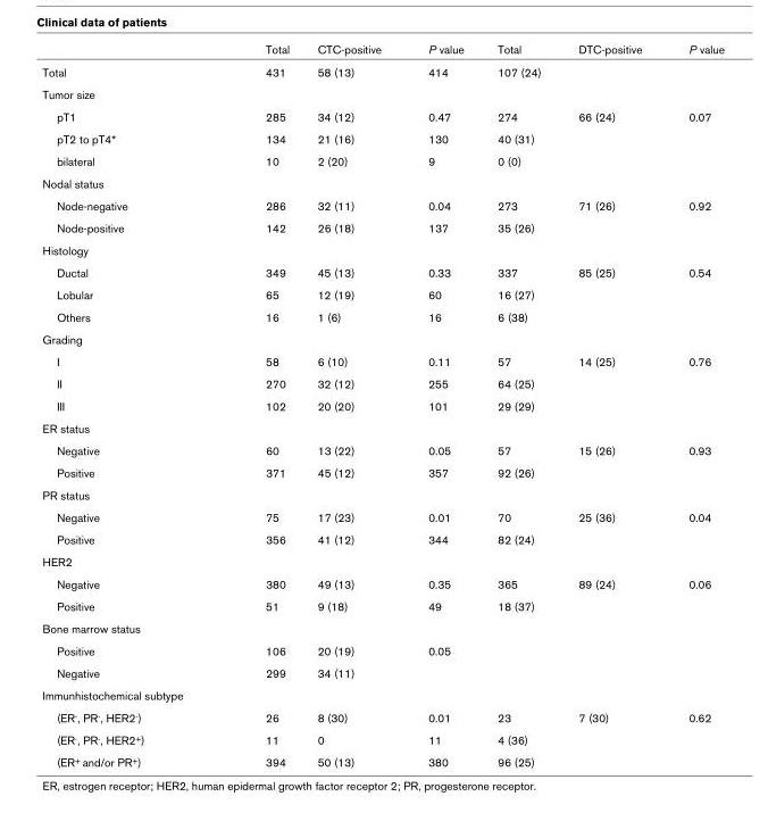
<table><thead><tr><td></td><td>Total</td><td>CTC-positive</td><td>P value</td><td>Total</td><td>DTC-positive</td><td>P value</td></tr></thead><tbody><tr><td>Total</td><td>431</td><td>58 (13)</td><td>414</td><td>107 (24)</td><td></td><td></td></tr><tr><td colspan="7">Tumor size</td></tr><tr><td>pT1</td><td>285</td><td>34 (12)</td><td>0.47</td><td>274</td><td>66 (24)</td><td>0.07</td></tr><tr><td>pT2 to pT4*</td><td>134</td><td>21 (16)</td><td>130</td><td>40 (31)</td><td></td><td></td></tr><tr><td>bilateral</td><td>10</td><td>2 (20)</td><td>9</td><td>0 (0)</td><td></td><td></td></tr><tr><td colspan="7">Nodal status</td></tr><tr><td>Node-negative</td><td>286</td><td>32 (11)</td><td>0.04</td><td>273</td><td>71 (26)</td><td>0.92</td></tr><tr><td>Node-positive</td><td>142</td><td>26 (18)</td><td>137</td><td>35 (26)</td><td></td><td></td></tr><tr><td colspan="7">Histology</td></tr><tr><td>Ductal</td><td>349</td><td>45 (13)</td><td>0.33</td><td>337</td><td>85 (25)</td><td>0.54</td></tr><tr><td>Lobular</td><td>65</td><td>12 (19)</td><td>60</td><td>16 (27)</td><td></td><td></td></tr><tr><td>Others</td><td>16</td><td>1 (6)</td><td>16</td><td>6 (38)</td><td></td><td></td></tr><tr><td colspan="7">Grading</td></tr><tr><td>I</td><td>58</td><td>6 (10)</td><td>0.11</td><td>57</td><td>14 (25)</td><td>0.76</td></tr><tr><td>II</td><td>270</td><td>32 (12)</td><td>255</td><td>64 (25)</td><td></td><td></td></tr><tr><td>III</td><td>102</td><td>20 (20)</td><td>101</td><td>29 (29)</td><td></td><td></td></tr><tr><td colspan="7">ER status</td></tr><tr><td>Negative</td><td>60</td><td>13 (22)</td><td>0.05</td><td>57</td><td>15 (26)</td><td>0.93</td></tr><tr><td>Positive</td><td>371</td><td>45 (12)</td><td>357</td><td>92 (26)</td><td></td><td></td></tr><tr><td colspan="7">PR status</td></tr><tr><td>Negative</td><td>75</td><td>17 (23)</td><td>0.01</td><td>70</td><td>25 (36)</td><td>0.04</td></tr><tr><td>Positive</td><td>356</td><td>41 (12)</td><td>344</td><td>82 (24)</td><td></td><td></td></tr><tr><td colspan="7">HER2</td></tr><tr><td>Negative</td><td>380</td><td>49 (13)</td><td>0.35</td><td>365</td><td>89 (24)</td><td>0.06</td></tr><tr><td>Positive</td><td>51</td><td>9 (18)</td><td>49</td><td>18 (37)</td><td></td><td></td></tr><tr><td colspan="7">Bone marrow status</td></tr><tr><td>Positive</td><td>106</td><td>20 (19)</td><td>0.05</td><td></td><td></td><td></td></tr><tr><td>Negative</td><td>299</td><td>34 (11)</td><td></td><td></td><td></td><td></td></tr><tr><td colspan="7">Immunhistochemical subtype</td></tr><tr><td>(ER<sup>-</sup>, PR<sup>-</sup>, HER2<sup>-</sup>)</td><td>26</td><td>8 (30)</td><td>0.01</td><td>23</td><td>7 (30)</td><td>0.62</td></tr><tr><td>(ER<sup>-</sup>, PR<sup>-</sup>, HER2<sup>+</sup>)</td><td>11</td><td>0</td><td>11</td><td>4 (36)</td><td></td><td></td></tr><tr><td>(ER<sup>+</sup> and/or PR<sup>+</sup>)</td><td>394</td><td>50 (13)</td><td>380</td><td>96 (25)</td><td></td><td></td></tr></tbody></table>